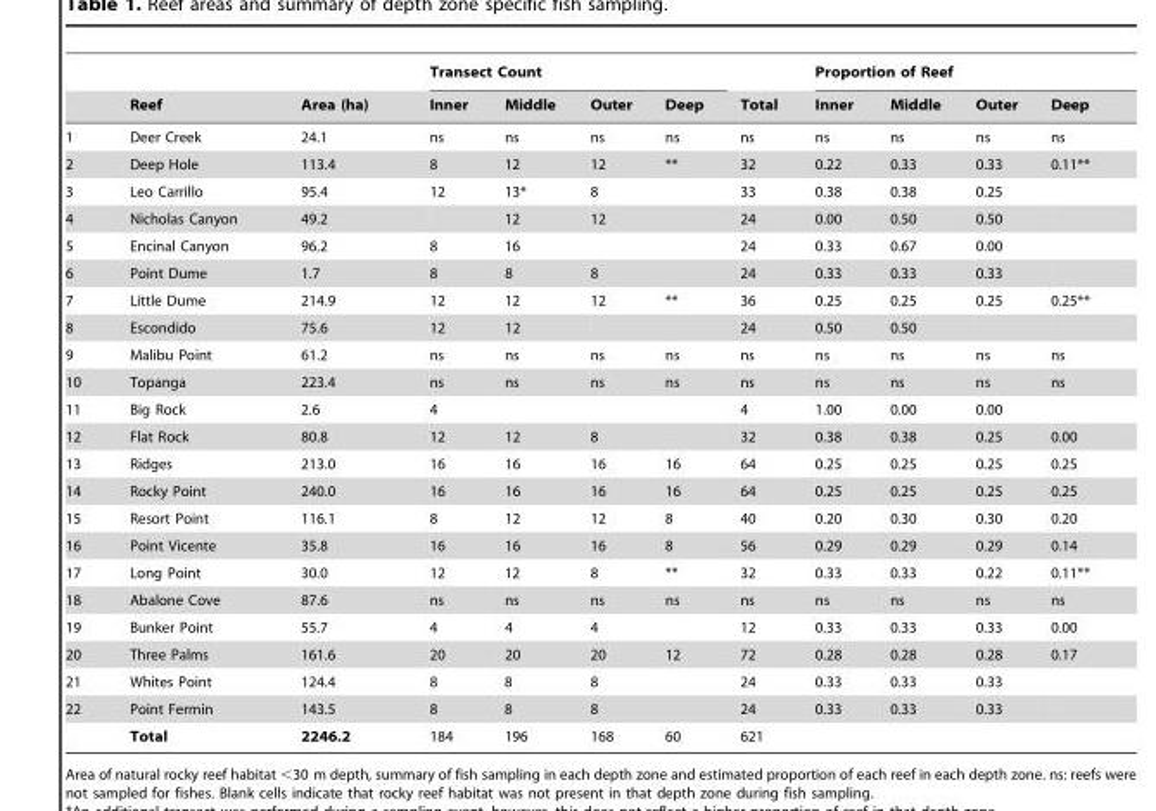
<table><thead><tr><td rowspan="2"></td><td rowspan="2">Reef</td><td rowspan="2">Area (ha)</td><td colspan="4">Transect Count</td><td rowspan="2">Total</td><td colspan="4">Proportion of Reef</td></tr><tr><td>Inner</td><td>Middle</td><td>Outer</td><td>Deep</td><td>Inner</td><td>Middle</td><td>Outer</td><td>Deep</td></tr></thead><tbody><tr><td>1</td><td>Deer Creek</td><td>24.1</td><td>ns</td><td>ns</td><td>ns</td><td>ns</td><td>ns</td><td>ns</td><td>ns</td><td>ns</td><td>ns</td></tr><tr><td>2</td><td>Deep Hole</td><td>113.4</td><td>8</td><td>12</td><td>12</td><td>**</td><td>32</td><td>0.22</td><td>0.33</td><td>0.33</td><td>0.11**</td></tr><tr><td>3</td><td>Leo Carrillo</td><td>95.4</td><td>12</td><td>13*</td><td>8</td><td></td><td>33</td><td>0.38</td><td>0.38</td><td>0.25</td><td></td></tr><tr><td>4</td><td>Nicholas Canyon</td><td>49.2</td><td></td><td>12</td><td>12</td><td></td><td>24</td><td>0.00</td><td>0.50</td><td>0.50</td><td></td></tr><tr><td>5</td><td>Encinal Canyon</td><td>96.2</td><td>8</td><td>16</td><td></td><td></td><td>24</td><td>0.33</td><td>0.67</td><td>0.00</td><td></td></tr><tr><td>6</td><td>Point Dume</td><td>1.7</td><td>8</td><td>8</td><td>8</td><td></td><td>24</td><td>0.33</td><td>0.33</td><td>0.33</td><td></td></tr><tr><td>7</td><td>Little Dume</td><td>214.9</td><td>12</td><td>12</td><td>12</td><td>**</td><td>36</td><td>0.25</td><td>0.25</td><td>0.25</td><td>0.25**</td></tr><tr><td>8</td><td>Escondido</td><td>75.6</td><td>12</td><td>12</td><td></td><td></td><td>24</td><td>0.50</td><td>0.50</td><td></td><td></td></tr><tr><td>9</td><td>Malibu Point</td><td>61.2</td><td>ns</td><td>ns</td><td>ns</td><td>ns</td><td>ns</td><td>ns</td><td>ns</td><td>ns</td><td>ns</td></tr><tr><td>10</td><td>Topanga</td><td>223.4</td><td>ns</td><td>ns</td><td>ns</td><td>ns</td><td>ns</td><td>ns</td><td>ns</td><td>ns</td><td>ns</td></tr><tr><td>11</td><td>Big Rock</td><td>2.6</td><td>4</td><td></td><td></td><td></td><td>4</td><td>1.00</td><td>0.00</td><td>0.00</td><td></td></tr><tr><td>12</td><td>Flat Rock</td><td>80.8</td><td>12</td><td>12</td><td>8</td><td></td><td>32</td><td>0.38</td><td>0.38</td><td>0.25</td><td>0.00</td></tr><tr><td>13</td><td>Ridges</td><td>213.0</td><td>16</td><td>16</td><td>16</td><td>16</td><td>64</td><td>0.25</td><td>0.25</td><td>0.25</td><td>0.25</td></tr><tr><td>14</td><td>Rocky Point</td><td>240.0</td><td>16</td><td>16</td><td>16</td><td>16</td><td>64</td><td>0.25</td><td>0.25</td><td>0.25</td><td>0.25</td></tr><tr><td>15</td><td>Resort Point</td><td>116.1</td><td>8</td><td>12</td><td>12</td><td>8</td><td>40</td><td>0.20</td><td>0.30</td><td>0.30</td><td>0.20</td></tr><tr><td>16</td><td>Point Vicente</td><td>35.8</td><td>16</td><td>16</td><td>16</td><td>8</td><td>56</td><td>0.29</td><td>0.29</td><td>0.29</td><td>0.14</td></tr><tr><td>17</td><td>Long Point</td><td>30.0</td><td>12</td><td>12</td><td>8</td><td>**</td><td>32</td><td>0.33</td><td>0.33</td><td>0.22</td><td>0.11**</td></tr><tr><td>18</td><td>Abalone Cove</td><td>87.6</td><td>ns</td><td>ns</td><td>ns</td><td>ns</td><td>ns</td><td>ns</td><td>ns</td><td>ns</td><td>ns</td></tr><tr><td>19</td><td>Bunker Point</td><td>55.7</td><td>4</td><td>4</td><td>4</td><td></td><td>12</td><td>0.33</td><td>0.33</td><td>0.33</td><td>0.00</td></tr><tr><td>20</td><td>Three Palms</td><td>161.6</td><td>20</td><td>20</td><td>20</td><td>12</td><td>72</td><td>0.28</td><td>0.28</td><td>0.28</td><td>0.17</td></tr><tr><td>21</td><td>Whites Point</td><td>124.4</td><td>8</td><td>8</td><td>8</td><td></td><td>24</td><td>0.33</td><td>0.33</td><td>0.33</td><td></td></tr><tr><td rowspan="2">22</td><td>Point Fermin</td><td>143.5</td><td>8</td><td>8</td><td>8</td><td></td><td>24</td><td>0.33</td><td>0.33</td><td>0.33</td><td></td></tr><tr><td>Total</td><td>2246.2</td><td>184</td><td>196</td><td>168</td><td>60</td><td>621</td><td></td><td></td><td></td><td></td></tr></tbody></table>